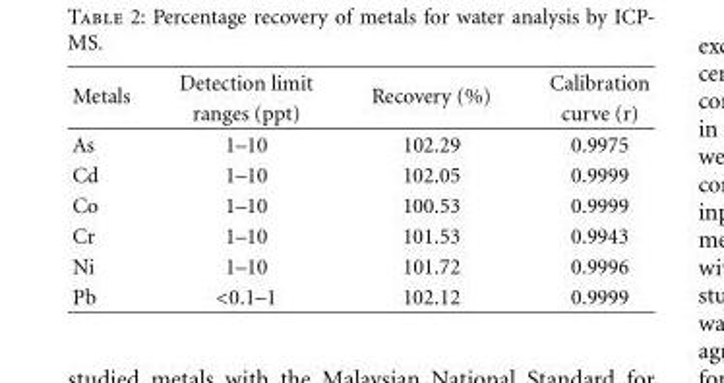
<table><thead><tr><td>Metals</td><td>Detection limit ranges (ppt)</td><td>Recovery (%)</td><td>Calibration curve (r)</td></tr></thead><tbody><tr><td>As</td><td>1–10</td><td>102.29</td><td>0.9975</td></tr><tr><td>Cd</td><td>1–10</td><td>102.05</td><td>0.9999</td></tr><tr><td>Co</td><td>1–10</td><td>100.53</td><td>0.9999</td></tr><tr><td>Cr</td><td>1–10</td><td>101.53</td><td>0.9943</td></tr><tr><td>Ni</td><td>1–10</td><td>101.72</td><td>0.9996</td></tr><tr><td>Pb</td><td>&lt;0.1–1</td><td>102.12</td><td>0.9999</td></tr></tbody></table>